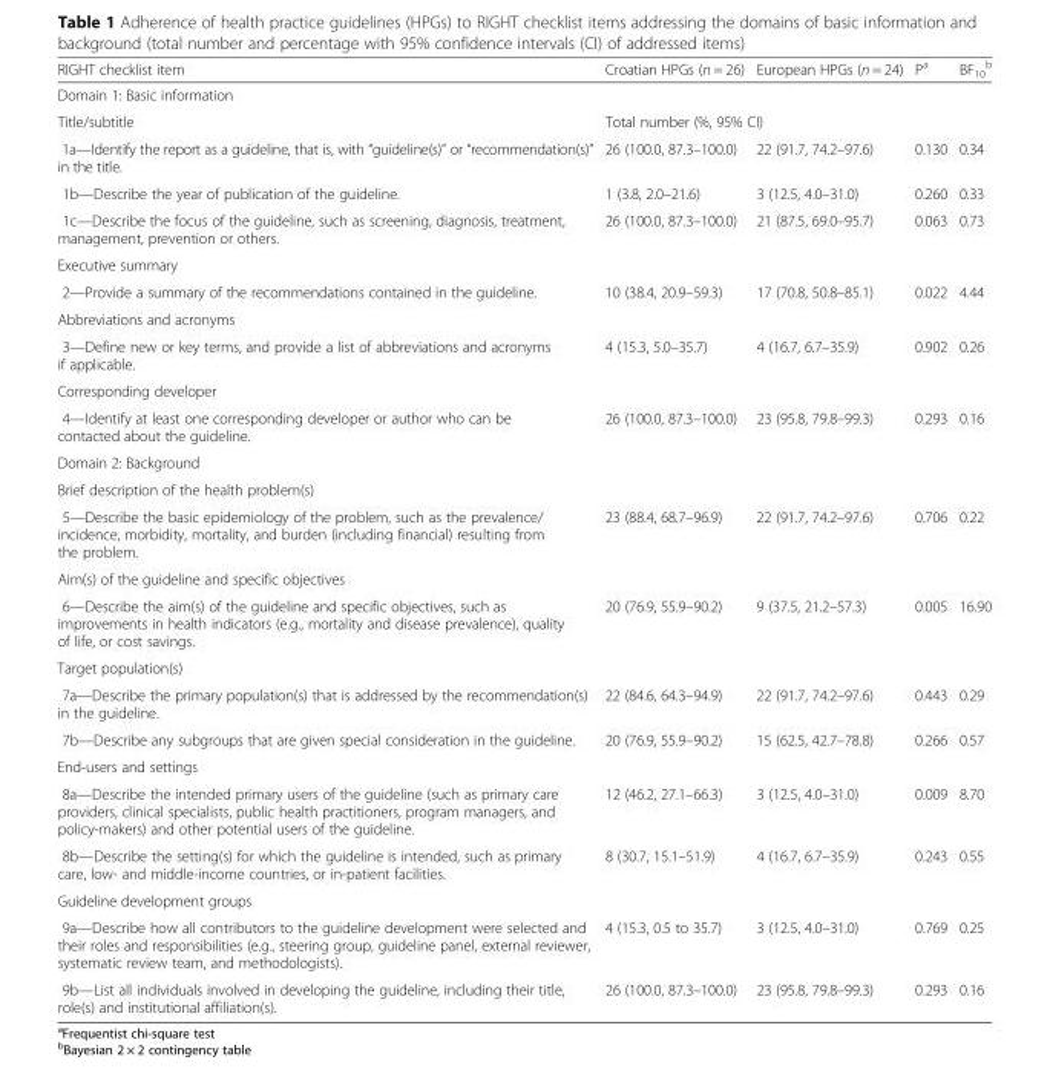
<table><thead><tr><td>RIGHT checklist item</td><td>Croatian HPGs (n = 26)</td><td>European HPGs (n = 24)</td><td>P<sup>a</sup></td><td>BF<sub>10</sub> <sup>b</sup></td></tr></thead><tbody><tr><td colspan="5">Domain 1: Basic information</td></tr><tr><td>Title/subtitle</td><td colspan="2">Total number (%, 95% CI)</td><td colspan="2"></td></tr><tr><td>1a—Identify the report as a guideline, that is, with “guideline(s)” or “recommendation(s)” in the title.</td><td>26 (100.0, 87.3–100.0)</td><td>22 (91.7, 74.2–97.6)</td><td>0.130</td><td>0.34</td></tr><tr><td>1b—Describe the year of publication of the guideline.</td><td>1 (3.8, 2.0–21.6)</td><td>3 (12.5, 4.0–31.0)</td><td>0.260</td><td>0.33</td></tr><tr><td>1c—Describe the focus of the guideline, such as screening, diagnosis, treatment, management, prevention or others.</td><td>26 (100.0, 87.3–100.0)</td><td>21 (87.5, 69.0–95.7)</td><td>0.063</td><td>0.73</td></tr><tr><td colspan="5">Executive summary</td></tr><tr><td>2—Provide a summary of the recommendations contained in the guideline.</td><td>10 (38.4, 20.9–59.3)</td><td>17 (70.8, 50.8–85.1)</td><td>0.022</td><td>4.44</td></tr><tr><td colspan="5">Abbreviations and acronyms</td></tr><tr><td>3—Define new or key terms, and provide a list of abbreviations and acronyms if applicable.</td><td>4 (15.3, 5.0–35.7)</td><td>4 (16.7, 6.7–35.9)</td><td>0.902</td><td>0.26</td></tr><tr><td colspan="5">Corresponding developer</td></tr><tr><td>4—Identify at least one corresponding developer or author who can be contacted about the guideline.</td><td>26 (100.0, 87.3–100.0)</td><td>23 (95.8, 79.8–99.3)</td><td>0.293</td><td>0.16</td></tr><tr><td colspan="5">Domain 2: Background</td></tr><tr><td colspan="5">Brief description of the health problem(s)</td></tr><tr><td>5—Describe the basic epidemiology of the problem, such as the prevalence/ incidence, morbidity, mortality, and burden (including financial) resulting from the problem.</td><td>23 (88.4, 68.7–96.9)</td><td>22 (91.7, 74.2–97.6)</td><td>0.706</td><td>0.22</td></tr><tr><td colspan="5">Aim(s) of the guideline and specific objectives</td></tr><tr><td>6—Describe the aim(s) of the guideline and specific objectives, such as improvements in health indicators (e.g., mortality and disease prevalence), quality of life, or cost savings.</td><td>20 (76.9, 55.9–90.2)</td><td>9 (37.5, 21.2–57.3)</td><td>0.005</td><td>16.90</td></tr><tr><td colspan="5">Target population(s)</td></tr><tr><td>7a—Describe the primary population(s) that is addressed by the recommendation(s) in the guideline.</td><td>22 (84.6, 64.3–94.9)</td><td>22 (91.7, 74.2–97.6)</td><td>0.443</td><td>0.29</td></tr><tr><td>7b—Describe any subgroups that are given special consideration in the guideline.</td><td>20 (76.9, 55.9–90.2)</td><td>15 (62.5, 42.7–78.8)</td><td>0.266</td><td>0.57</td></tr><tr><td colspan="5">End-users and settings</td></tr><tr><td>8a—Describe the intended primary users of the guideline (such as primary care providers, clinical specialists, public health practitioners, program managers, and policy-makers) and other potential users of the guideline.</td><td>12 (46.2, 27.1–66.3)</td><td>3 (12.5, 4.0–31.0)</td><td>0.009</td><td>8.70</td></tr><tr><td>8b—Describe the setting(s) for which the guideline is intended, such as primary care, low- and middle-income countries, or in-patient facilities.</td><td>8 (30.7, 15.1–51.9)</td><td>4 (16.7, 6.7–35.9)</td><td>0.243</td><td>0.55</td></tr><tr><td colspan="5">Guideline development groups</td></tr><tr><td>9a—Describe how all contributors to the guideline development were selected and their roles and responsibilities (e.g., steering group, guideline panel, external reviewer, systematic review team, and methodologists).</td><td>4 (15.3, 0.5 to 35.7)</td><td>3 (12.5, 4.0–31.0)</td><td>0.769</td><td>0.25</td></tr><tr><td>9b—List all individuals involved in developing the guideline, including their title, role(s) and institutional affiliation(s).</td><td>26 (100.0, 87.3–100.0)</td><td>23 (95.8, 79.8–99.3)</td><td>0.293</td><td>0.16</td></tr></tbody></table>